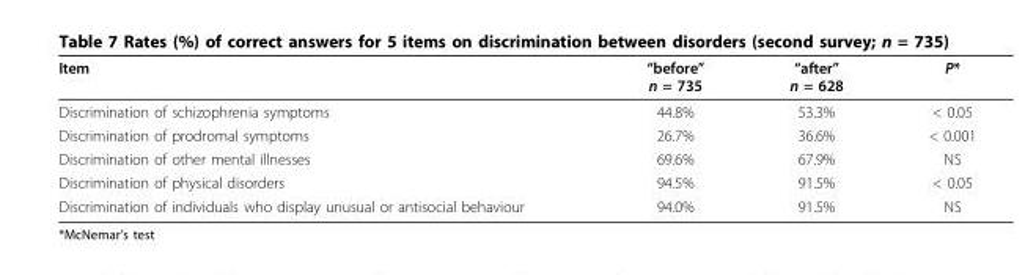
<table><thead><tr><td>Item</td><td>“before” n = 735</td><td>“after” n = 628</td><td>P*</td></tr></thead><tbody><tr><td>Discrimination of schizophrenia symptoms</td><td>44.8%</td><td>53.3%</td><td>&lt; 0.05</td></tr><tr><td>Discrimination of prodromal symptoms</td><td>26.7%</td><td>36.6%</td><td>&lt; 0.001</td></tr><tr><td>Discrimination of other mental illnesses</td><td>69.6%</td><td>67.9%</td><td>NS</td></tr><tr><td>Discrimination of physical disorders</td><td>94.5%</td><td>91.5%</td><td>&lt; 0.05</td></tr><tr><td>Discrimination of individuals who display unusual or antisocial behaviour</td><td>94.0%</td><td>91.5%</td><td>NS</td></tr></tbody></table>